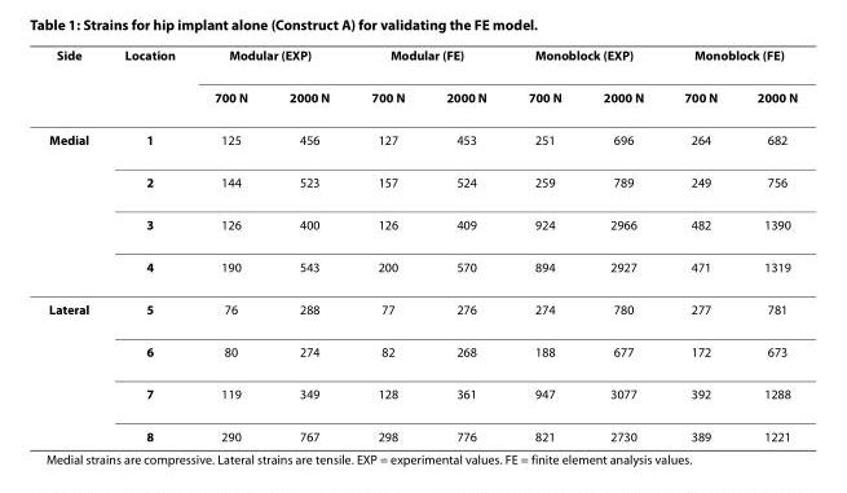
<table><thead><tr><td rowspan="2">Side</td><td rowspan="2">Location</td><td colspan="2">Modular (EXP)</td><td colspan="2">Modular (FE)</td><td colspan="2">Monoblock (EXP)</td><td colspan="2">Monoblock (FE)</td></tr><tr><td>700 N</td><td>2000 N</td><td>700 N</td><td>2000 N</td><td>700 N</td><td>2000 N</td><td>700 N</td><td>2000 N</td></tr></thead><tbody><tr><td rowspan="4">Medial</td><td>1</td><td>125</td><td>456</td><td>127</td><td>453</td><td>251</td><td>696</td><td>264</td><td>682</td></tr><tr><td>2</td><td>144</td><td>523</td><td>157</td><td>524</td><td>259</td><td>789</td><td>249</td><td>756</td></tr><tr><td>3</td><td>126</td><td>400</td><td>126</td><td>409</td><td>924</td><td>2966</td><td>482</td><td>1390</td></tr><tr><td>4</td><td>190</td><td>543</td><td>200</td><td>570</td><td>894</td><td>2927</td><td>471</td><td>1319</td></tr><tr><td rowspan="4">Lateral</td><td>5</td><td>76</td><td>288</td><td>77</td><td>276</td><td>274</td><td>780</td><td>277</td><td>781</td></tr><tr><td>6</td><td>80</td><td>274</td><td>82</td><td>268</td><td>188</td><td>677</td><td>172</td><td>673</td></tr><tr><td>7</td><td>119</td><td>349</td><td>128</td><td>361</td><td>947</td><td>3077</td><td>392</td><td>1288</td></tr><tr><td>8</td><td>290</td><td>767</td><td>298</td><td>776</td><td>821</td><td>2730</td><td>389</td><td>1221</td></tr></tbody></table>